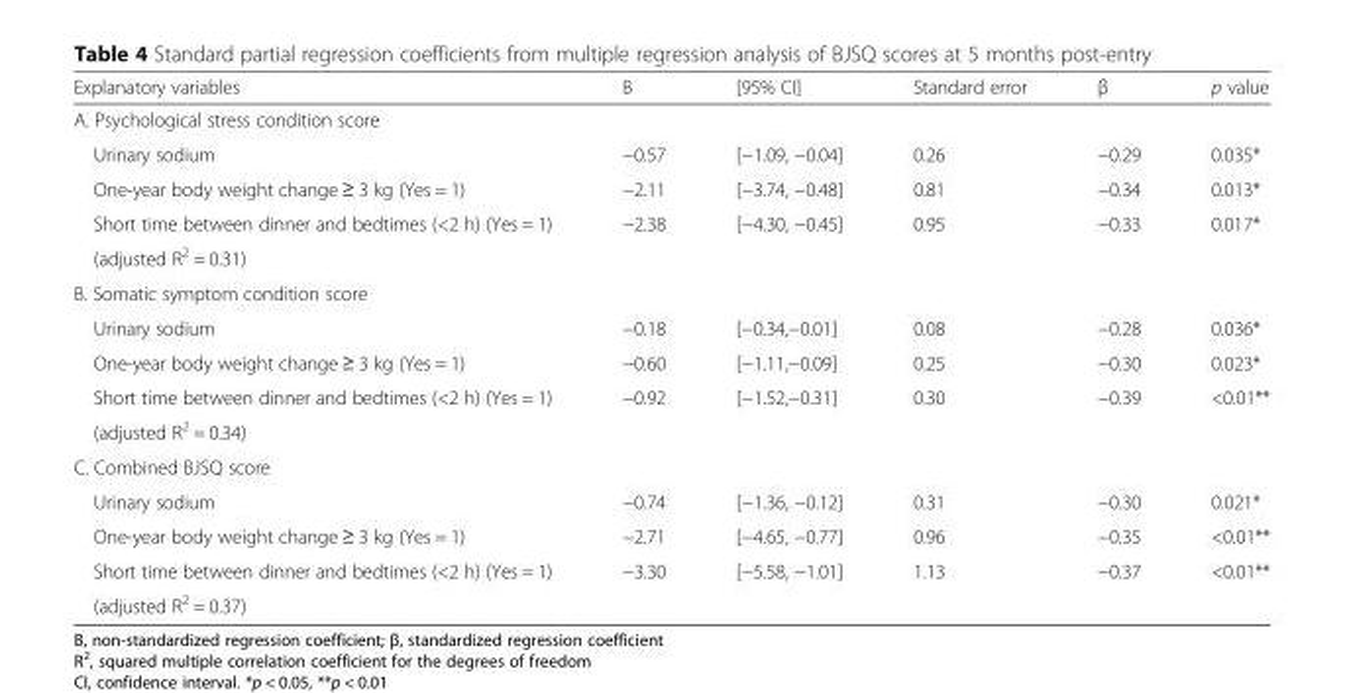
<table><thead><tr><td>Explanatory variables</td><td>B</td><td>[95% CI]</td><td>Standard error</td><td>β</td><td>p value</td></tr></thead><tbody><tr><td colspan="6">A. Psychological stress condition score</td></tr><tr><td>Urinary sodium</td><td>−0.57</td><td>[−1.09, −0.04]</td><td>0.26</td><td>−0.29</td><td>0.035*</td></tr><tr><td>One-year body weight change ≥ 3 kg (Yes = 1)</td><td>−2.11</td><td>[−3.74, −0.48]</td><td>0.81</td><td>−0.34</td><td>0.013*</td></tr><tr><td>Short time between dinner and bedtimes (&lt;2 h) (Yes = 1)</td><td>−2.38</td><td>[−4.30, −0.45]</td><td>0.95</td><td>−0.33</td><td>0.017*</td></tr><tr><td colspan="6">(adjusted R<sup>2</sup> = 0.31)</td></tr><tr><td colspan="6">B. Somatic symptom condition score</td></tr><tr><td>Urinary sodium</td><td>−0.18</td><td>[−0.34,−0.01]</td><td>0.08</td><td>−0.28</td><td>0.036*</td></tr><tr><td>One-year body weight change ≥ 3 kg (Yes = 1)</td><td>−0.60</td><td>[−1.11,−0.09]</td><td>0.25</td><td>−0.30</td><td>0.023*</td></tr><tr><td>Short time between dinner and bedtimes (&lt;2 h) (Yes = 1)</td><td>−0.92</td><td>[−1.52,−0.31]</td><td>0.30</td><td>−0.39</td><td>&lt;0.01**</td></tr><tr><td colspan="6">(adjusted R<sup>2</sup> = 0.34)</td></tr><tr><td colspan="6">C. Combined BJSQ score</td></tr><tr><td>Urinary sodium</td><td>−0.74</td><td>[−1.36, −0.12]</td><td>0.31</td><td>−0.30</td><td>0.021*</td></tr><tr><td>One-year body weight change ≥ 3 kg (Yes = 1)</td><td>−2.71</td><td>[−4.65, −0.77]</td><td>0.96</td><td>−0.35</td><td>&lt;0.01**</td></tr><tr><td>Short time between dinner and bedtimes (&lt;2 h) (Yes = 1)</td><td>−3.30</td><td>[−5.58, −1.01]</td><td>1.13</td><td>−0.37</td><td>&lt;0.01**</td></tr><tr><td colspan="6">(adjusted R<sup>2</sup> = 0.37)</td></tr></tbody></table>